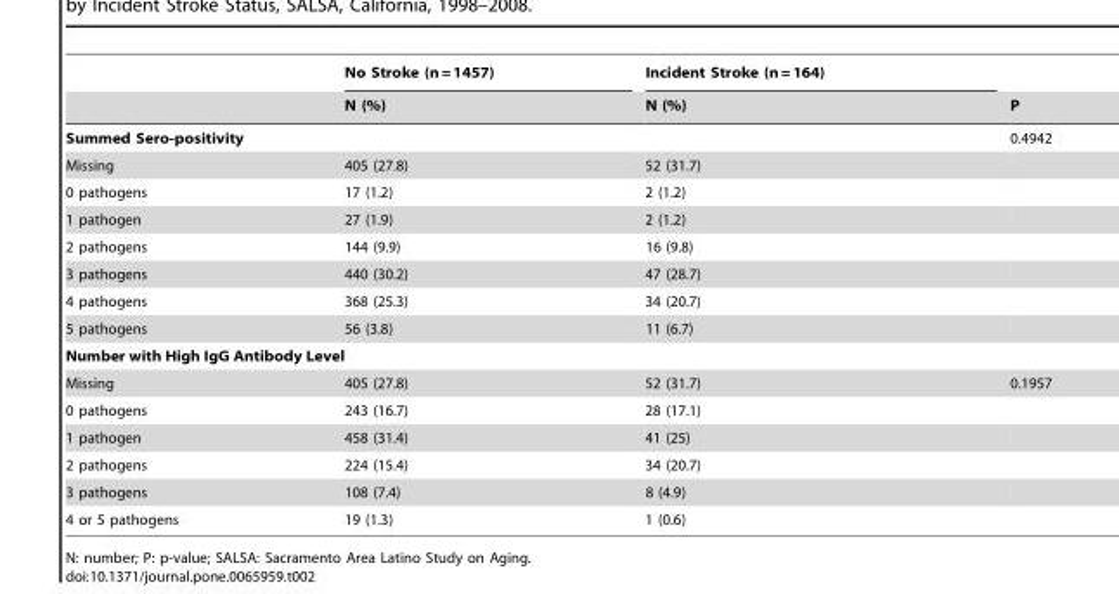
<table><thead><tr><td rowspan="2"></td><td rowspan="2">No Stroke (n = 1457) N (%)</td><td rowspan="2">Incident Stroke (n = 164) N (%)</td><td rowspan="2">P</td></tr><tr></tr></thead><tbody><tr><td>Summed Sero-positivity</td><td></td><td></td><td>0.4942</td></tr><tr><td>Missing</td><td>405 (27.8)</td><td>52 (31.7)</td><td></td></tr><tr><td>0 pathogens</td><td>17 (1.2)</td><td>2 (1.2)</td><td></td></tr><tr><td>1 pathogen</td><td>27 (1.9)</td><td>2 (1.2)</td><td></td></tr><tr><td>2 pathogens</td><td>144 (9.9)</td><td>16 (9.8)</td><td></td></tr><tr><td>3 pathogens</td><td>440 (30.2)</td><td>47 (28.7)</td><td></td></tr><tr><td>4 pathogens</td><td>368 (25.3)</td><td>34 (20.7)</td><td></td></tr><tr><td>5 pathogens</td><td>56 (3.8)</td><td>11 (6.7)</td><td></td></tr><tr><td colspan="4">Number with High IgG Antibody Level</td></tr><tr><td>Missing</td><td>405 (27.8)</td><td>52 (31.7)</td><td>0.1957</td></tr><tr><td>0 pathogens</td><td>243 (16.7)</td><td>28 (17.1)</td><td></td></tr><tr><td>1 pathogen</td><td>458 (31.4)</td><td>41 (25)</td><td></td></tr><tr><td>2 pathogens</td><td>224 (15.4)</td><td>34 (20.7)</td><td></td></tr><tr><td>3 pathogens</td><td>108 (7.4)</td><td>8 (4.9)</td><td></td></tr><tr><td>4 or 5 pathogens</td><td>19 (1.3)</td><td>1 (0.6)</td><td></td></tr></tbody></table>